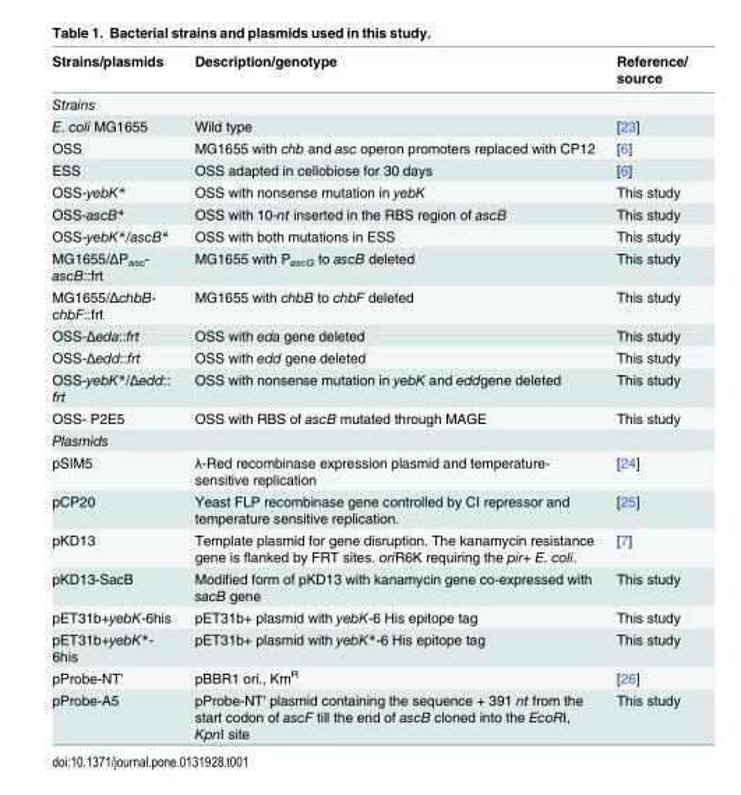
<table><thead><tr><td>Strains/plasmids</td><td>Description/genotype</td><td>Reference/ source</td></tr></thead><tbody><tr><td colspan="3">Strains</td></tr><tr><td>E. coli MG1655</td><td>Wild type</td><td>[23]</td></tr><tr><td>OSS</td><td>MG1655 with chb and asc operon promoters replaced with CP12</td><td>[6]</td></tr><tr><td>ESS</td><td>OSS adapted in cellobiose for 30 days</td><td>[6]</td></tr><tr><td>OSS-yebK*</td><td>OSS with nonsense mutation in yebK</td><td>This study</td></tr><tr><td>OSS-ascB*</td><td>OSS with 10-nt inserted in the RBS region of ascB</td><td>This study</td></tr><tr><td>OSS-yebK*/ascB*</td><td>OSS with both mutations in ESS</td><td>This study</td></tr><tr><td>MG1655/ΔP<sub>asc</sub>- ascB::frt</td><td>MG1655 with P<sub>ascG</sub> to ascB deleted</td><td>This study</td></tr><tr><td>MG1655/ΔchbB- chbF::frt</td><td>MG1655 with chbB to chbF deleted</td><td>This study</td></tr><tr><td>OSS-Δeda::frt</td><td>OSS with eda gene deleted</td><td>This study</td></tr><tr><td>OSS-Δedd::frt</td><td>OSS with edd gene deleted</td><td>This study</td></tr><tr><td>OSS-yebK*/Δedd:: frt</td><td>OSS with nonsense mutation in yebK and eddgene deleted</td><td>This study</td></tr><tr><td>OSS- P2E5</td><td>OSS with RBS of ascB mutated through MAGE</td><td>This study</td></tr><tr><td colspan="3">Plasmids</td></tr><tr><td>pSIM5</td><td>λ-Red recombinase expression plasmid and temperature- sensitive replication</td><td>[24]</td></tr><tr><td>pCP20</td><td>Yeast FLP recombinase gene controlled by CI repressor and temperature sensitive replication.</td><td>[25]</td></tr><tr><td>pKD13</td><td>Template plasmid for gene disruption. The kanamycin resistance gene is flanked by FRT sites. oriR6K requiring the pir+ E. coli.</td><td>[7]</td></tr><tr><td>pKD13-SacB</td><td>Modified form of pKD13 with kanamycin gene co-expressed with sacB gene</td><td>This study</td></tr><tr><td>pET31b+yebK-6his</td><td>pET31b+ plasmid with yebK-6 His epitope tag</td><td>This study</td></tr><tr><td>pET31b+yebK*- 6his</td><td>pET31b+ plasmid with yebK*-6 His epitope tag</td><td>This study</td></tr><tr><td>pProbe-NT&#x27;</td><td>pBBR1 ori., Km<sup>R</sup></td><td>[26]</td></tr><tr><td>pProbe-A5</td><td>pProbe-NT&#x27; plasmid containing the sequence + 391 nt from the start codon of ascF till the end of ascB cloned into the EcoRI, KpnI site</td><td>This study</td></tr></tbody></table>